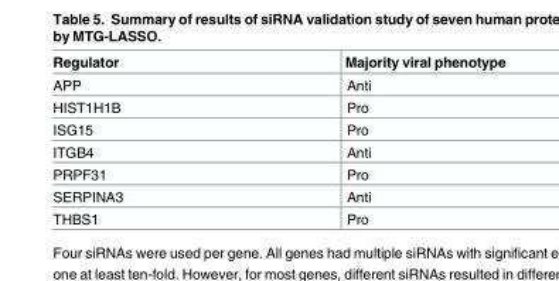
<table><thead><tr><td>Regulator</td><td>Majority viral phenotype</td></tr></thead><tbody><tr><td>APP</td><td>Anti</td></tr><tr><td>HIST1H1B</td><td>Pro</td></tr><tr><td>ISG15</td><td>Pro</td></tr><tr><td>ITGB4</td><td>Anti</td></tr><tr><td>PRPF31</td><td>Pro</td></tr><tr><td>SERPINA3</td><td>Anti</td></tr><tr><td>THBS1</td><td>Pro</td></tr></tbody></table>